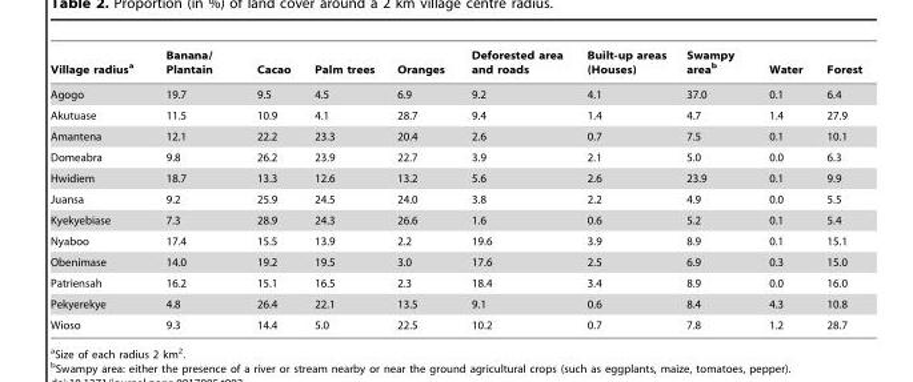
<table><thead><tr><td>Village radius<sup>a</sup></td><td>Banana/ Plantain</td><td>Cacao</td><td>Palm trees</td><td>Oranges</td><td>Deforested area and roads</td><td>Built-up areas (Houses)</td><td>Swampy area<sup>b</sup></td><td>Water</td><td>Forest</td></tr></thead><tbody><tr><td>Agogo</td><td>19.7</td><td>9.5</td><td>4.5</td><td>6.9</td><td>9.2</td><td>4.1</td><td>37.0</td><td>0.1</td><td>6.4</td></tr><tr><td>Akutuase</td><td>11.5</td><td>10.9</td><td>4.1</td><td>28.7</td><td>9.4</td><td>1.4</td><td>4.7</td><td>1.4</td><td>27.9</td></tr><tr><td>Amantena</td><td>12.1</td><td>22.2</td><td>23.3</td><td>20.4</td><td>2.6</td><td>0.7</td><td>7.5</td><td>0.1</td><td>10.1</td></tr><tr><td>Domeabra</td><td>9.8</td><td>26.2</td><td>23.9</td><td>22.7</td><td>3.9</td><td>2.1</td><td>5.0</td><td>0.0</td><td>6.3</td></tr><tr><td>Hwidiem</td><td>18.7</td><td>13.3</td><td>12.6</td><td>13.2</td><td>5.6</td><td>2.6</td><td>23.9</td><td>0.1</td><td>9.9</td></tr><tr><td>Juansa</td><td>9.2</td><td>25.9</td><td>24.5</td><td>24.0</td><td>3.8</td><td>2.2</td><td>4.9</td><td>0.0</td><td>5.5</td></tr><tr><td>Kyekyebiase</td><td>7.3</td><td>28.9</td><td>24.3</td><td>26.6</td><td>1.6</td><td>0.6</td><td>5.2</td><td>0.1</td><td>5.4</td></tr><tr><td>Nyaboo</td><td>17.4</td><td>15.5</td><td>13.9</td><td>2.2</td><td>19.6</td><td>3.9</td><td>8.9</td><td>0.1</td><td>15.1</td></tr><tr><td>Obenimase</td><td>14.0</td><td>19.2</td><td>19.5</td><td>3.0</td><td>17.6</td><td>2.5</td><td>6.9</td><td>0.3</td><td>15.0</td></tr><tr><td>Patriensah</td><td>16.2</td><td>15.1</td><td>16.5</td><td>2.3</td><td>18.4</td><td>3.4</td><td>8.9</td><td>0.0</td><td>16.0</td></tr><tr><td>Pekyerekye</td><td>4.8</td><td>26.4</td><td>22.1</td><td>13.5</td><td>9.1</td><td>0.6</td><td>8.4</td><td>4.3</td><td>10.8</td></tr><tr><td>Wioso</td><td>9.3</td><td>14.4</td><td>5.0</td><td>22.5</td><td>10.2</td><td>0.7</td><td>7.8</td><td>1.2</td><td>28.7</td></tr></tbody></table>